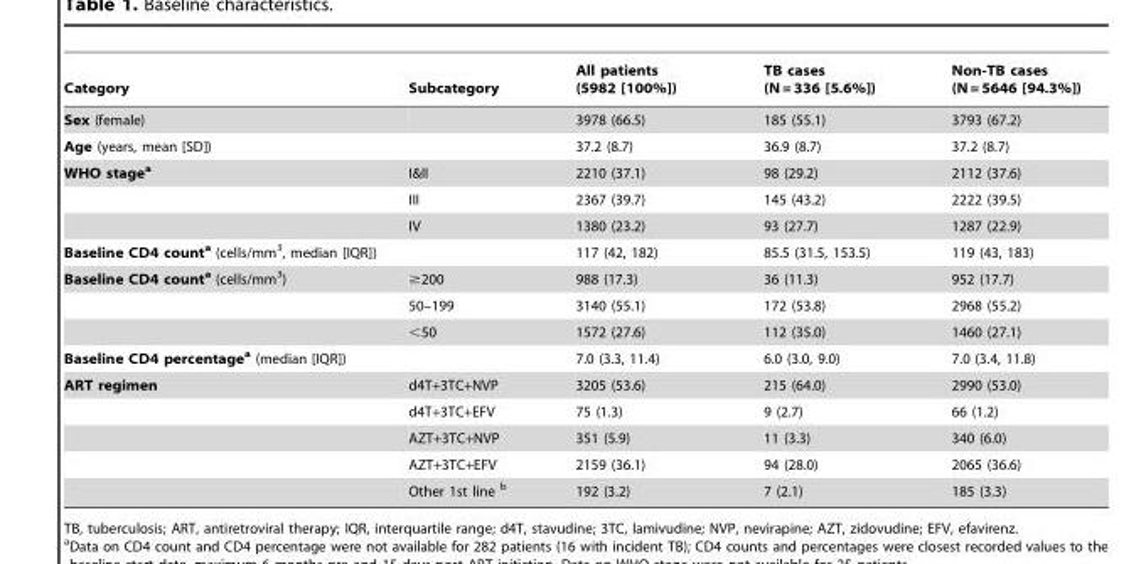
<table><thead><tr><td>Category</td><td>Subcategory</td><td>All patients (5982 [100%])</td><td>TB cases (N = 336 [5.6%])</td><td>Non-TB cases (N = 5646 [94.3%])</td></tr></thead><tbody><tr><td>Sex (female)</td><td></td><td>3978 (66.5)</td><td>185 (55.1)</td><td>3793 (67.2)</td></tr><tr><td>Age (years, mean [SD])</td><td></td><td>37.2 (8.7)</td><td>36.9 (8.7)</td><td>37.2 (8.7)</td></tr><tr><td rowspan="3">WHO stagea</td><td>I&amp;II</td><td>2210 (37.1)</td><td>98 (29.2)</td><td>2112 (37.6)</td></tr><tr><td>III</td><td>2367 (39.7)</td><td>145 (43.2)</td><td>2222 (39.5)</td></tr><tr><td>IV</td><td>1380 (23.2)</td><td>93 (27.7)</td><td>1287 (22.9)</td></tr><tr><td>Baseline CD4 counta (cells/mm<sup>3</sup>, median [IQR])</td><td></td><td>117 (42, 182)</td><td>85.5 (31.5, 153.5)</td><td>119 (43, 183)</td></tr><tr><td rowspan="3">Baseline CD4 counta (cells/mm<sup>3</sup>)</td><td>≥200</td><td>988 (17.3)</td><td>36 (11.3)</td><td>952 (17.7)</td></tr><tr><td>50–199</td><td>3140 (55.1)</td><td>172 (53.8)</td><td>2968 (55.2)</td></tr><tr><td>&lt;50</td><td>1572 (27.6)</td><td>112 (35.0)</td><td>1460 (27.1)</td></tr><tr><td>Baseline CD4 percentagea (median [IQR])</td><td></td><td>7.0 (3.3, 11.4)</td><td>6.0 (3.0, 9.0)</td><td>7.0 (3.4, 11.8)</td></tr><tr><td rowspan="5">ART regimen</td><td>d4T+3TC+NVP</td><td>3205 (53.6)</td><td>215 (64.0)</td><td>2990 (53.0)</td></tr><tr><td>d4T+3TC+EFV</td><td>75 (1.3)</td><td>9 (2.7)</td><td>66 (1.2)</td></tr><tr><td>AZT+3TC+NVP</td><td>351 (5.9)</td><td>11 (3.3)</td><td>340 (6.0)</td></tr><tr><td>AZT+3TC+EFV</td><td>2159 (36.1)</td><td>94 (28.0)</td><td>2065 (36.6)</td></tr><tr><td>Other 1st line b</td><td>192 (3.2)</td><td>7 (2.1)</td><td>185 (3.3)</td></tr></tbody></table>